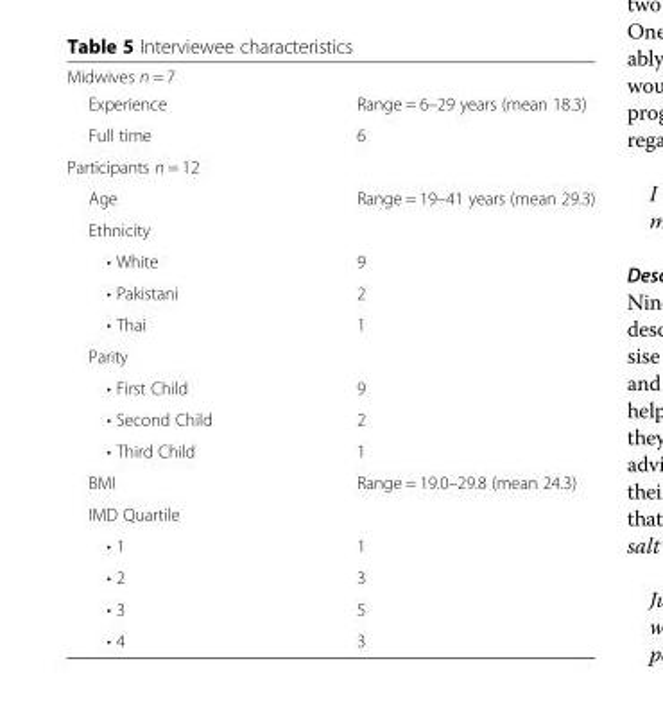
<table><thead><tr><td colspan="2">Midwives n = 7</td></tr><tr><td>Experience</td><td>Range = 6–29 years (mean 18.3)</td></tr></thead><tbody><tr><td>Full time</td><td>6</td></tr><tr><td colspan="2">Participants n = 12</td></tr><tr><td>Age</td><td>Range = 19–41 years (mean 29.3)</td></tr><tr><td colspan="2">Ethnicity</td></tr><tr><td>• White</td><td>9</td></tr><tr><td>• Pakistani</td><td>2</td></tr><tr><td>• Thai</td><td>1</td></tr><tr><td colspan="2">Parity</td></tr><tr><td>• First Child</td><td>9</td></tr><tr><td>• Second Child</td><td>2</td></tr><tr><td>• Third Child</td><td>1</td></tr><tr><td>BMI</td><td>Range = 19.0–29.8 (mean 24.3)</td></tr><tr><td colspan="2">IMD Quartile</td></tr><tr><td>• 1</td><td>1</td></tr><tr><td>• 2</td><td>3</td></tr><tr><td>• 3</td><td>5</td></tr><tr><td>• 4</td><td>3</td></tr></tbody></table>